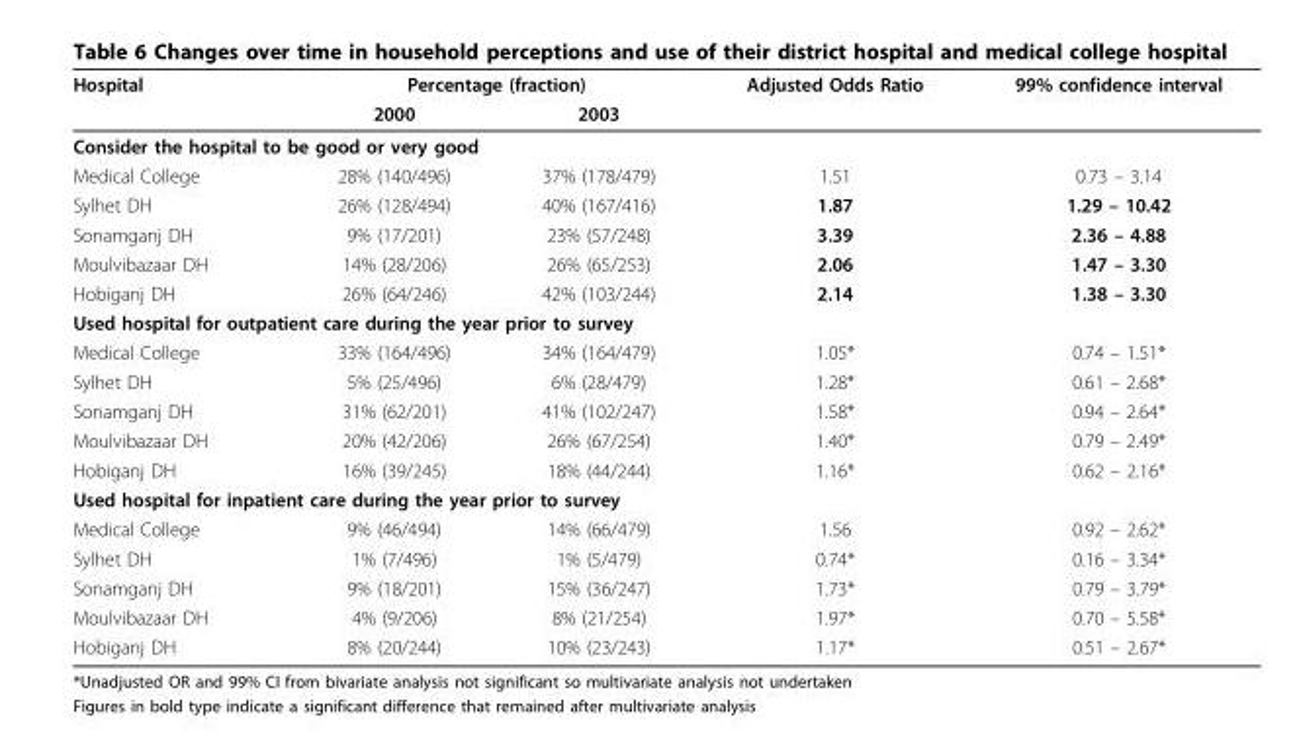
<table><thead><tr><td rowspan="2">Hospital</td><td colspan="2">Percentage (fraction)</td><td rowspan="2">Adjusted Odds Ratio</td><td rowspan="2">99% confidence interval</td></tr><tr><td>2000</td><td>2003</td></tr></thead><tbody><tr><td colspan="5">Consider the hospital to be good or very good</td></tr><tr><td>Medical College</td><td>28% (140/496)</td><td>37% (178/479)</td><td>1.51</td><td>0.73 – 3.14</td></tr><tr><td>Sylhet DH</td><td>26% (128/494)</td><td>40% (167/416)</td><td>1.87</td><td>1.29 – 10.42</td></tr><tr><td>Sonamganj DH</td><td>9% (17/201)</td><td>23% (57/248)</td><td>3.39</td><td>2.36 – 4.88</td></tr><tr><td>Moulvibazaar DH</td><td>14% (28/206)</td><td>26% (65/253)</td><td>2.06</td><td>1.47 – 3.30</td></tr><tr><td>Hobiganj DH</td><td>26% (64/246)</td><td>42% (103/244)</td><td>2.14</td><td>1.38 – 3.30</td></tr><tr><td colspan="5">Used hospital for outpatient care during the year prior to survey</td></tr><tr><td>Medical College</td><td>33% (164/496)</td><td>34% (164/479)</td><td>1.05*</td><td>0.74 – 1.51*</td></tr><tr><td>Sylhet DH</td><td>5% (25/496)</td><td>6% (28/479)</td><td>1.28*</td><td>0.61 – 2.68*</td></tr><tr><td>Sonamganj DH</td><td>31% (62/201)</td><td>41% (102/247)</td><td>1.58*</td><td>0.94 – 2.64*</td></tr><tr><td>Moulvibazaar DH</td><td>20% (42/206)</td><td>26% (67/254)</td><td>1.40*</td><td>0.79 – 2.49*</td></tr><tr><td>Hobiganj DH</td><td>16% (39/245)</td><td>18% (44/244)</td><td>1.16*</td><td>0.62 – 2.16*</td></tr><tr><td colspan="5">Used hospital for inpatient care during the year prior to survey</td></tr><tr><td>Medical College</td><td>9% (46/494)</td><td>14% (66/479)</td><td>1.56</td><td>0.92 – 2.62*</td></tr><tr><td>Sylhet DH</td><td>1% (7/496)</td><td>1% (5/479)</td><td>0.74*</td><td>0.16 – 3.34*</td></tr><tr><td>Sonamganj DH</td><td>9% (18/201)</td><td>15% (36/247)</td><td>1.73*</td><td>0.79 – 3.79*</td></tr><tr><td>Moulvibazaar DH</td><td>4% (9/206)</td><td>8% (21/254)</td><td>1.97*</td><td>0.70 – 5.58*</td></tr><tr><td>Hobiganj DH</td><td>8% (20/244)</td><td>10% (23/243)</td><td>1.17*</td><td>0.51 – 2.67*</td></tr></tbody></table>